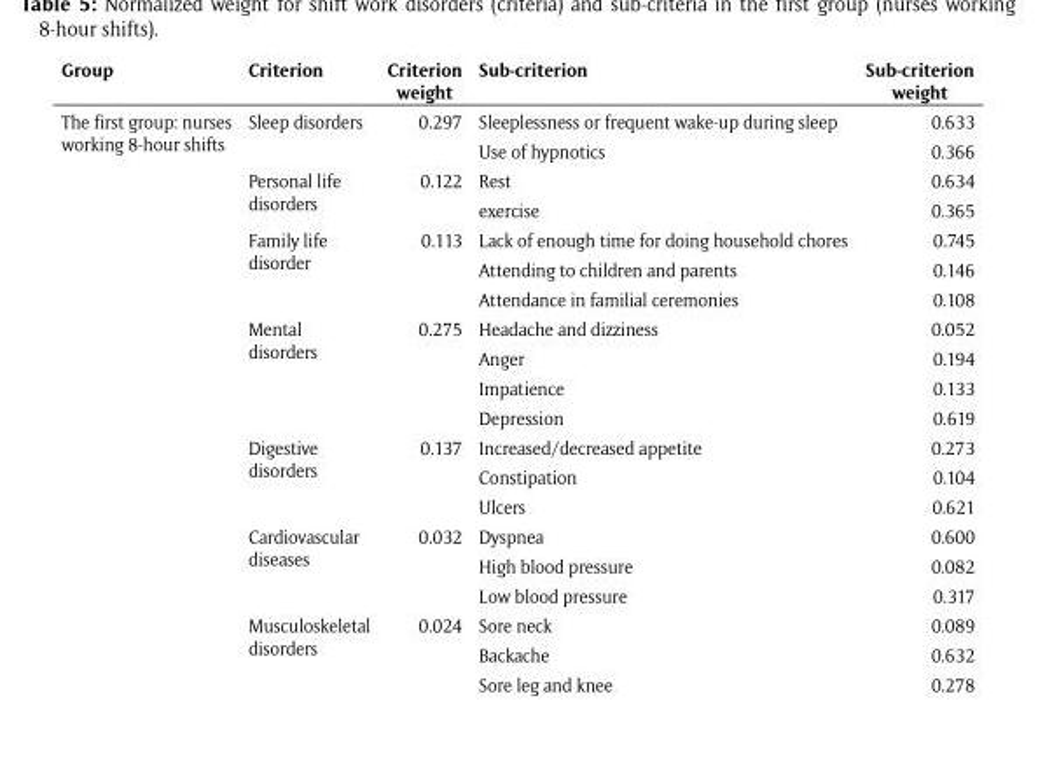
<table><thead><tr><td>Group</td><td>Criterion</td><td>Criterion weight</td><td>Sub-criterion</td><td>Sub-criterion weight</td></tr></thead><tbody><tr><td rowspan="20">The first group: nurses working 8-hour shifts</td><td rowspan="2">Sleep disorders</td><td rowspan="2">0.297</td><td>Sleeplessness or frequent wake-up during sleep</td><td>0.633</td></tr><tr><td>Use of hypnotics</td><td>0.366</td></tr><tr><td rowspan="2">Personal life disorders</td><td rowspan="2">0.122</td><td>Rest</td><td>0.634</td></tr><tr><td>exercise</td><td>0.365</td></tr><tr><td rowspan="3">Family life disorder</td><td rowspan="3">0.113</td><td>Lack of enough time for doing household chores</td><td>0.745</td></tr><tr><td>Attending to children and parents</td><td>0.146</td></tr><tr><td>Attendance in familial ceremonies</td><td>0.108</td></tr><tr><td rowspan="4">Mental disorders</td><td rowspan="4">0.275</td><td>Headache and dizziness</td><td>0.052</td></tr><tr><td>Anger</td><td>0.194</td></tr><tr><td>Impatience</td><td>0.133</td></tr><tr><td>Depression</td><td>0.619</td></tr><tr><td rowspan="3">Digestive disorders</td><td rowspan="3">0.137</td><td>Increased/decreased appetite</td><td>0.273</td></tr><tr><td>Constipation</td><td>0.104</td></tr><tr><td>Ulcers</td><td>0.621</td></tr><tr><td rowspan="3">Cardiovascular diseases</td><td rowspan="3">0.032</td><td>Dyspnea</td><td>0.600</td></tr><tr><td>High blood pressure</td><td>0.082</td></tr><tr><td>Low blood pressure</td><td>0.317</td></tr><tr><td rowspan="3">Musculoskeletal disorders</td><td rowspan="3">0.024</td><td>Sore neck</td><td>0.089</td></tr><tr><td>Backache</td><td>0.632</td></tr><tr><td>Sore leg and knee</td><td>0.278</td></tr></tbody></table>